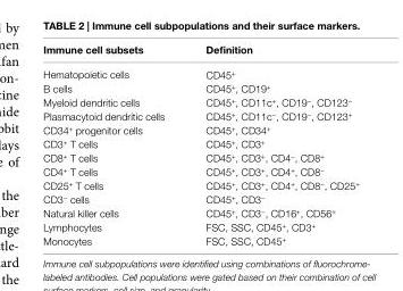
<table><thead><tr><td>immune cell subsets</td><td>Definition</td></tr></thead><tbody><tr><td>Hematopoietic cells</td><td>CD45<sup>+</sup></td></tr><tr><td>B cells</td><td>CD45<sup>+</sup>, CD19<sup>+</sup></td></tr><tr><td>Myeloid dendritic cells</td><td>CD45<sup>+</sup>, CD11c<sup>+</sup>, CD19<sup>−</sup>, CD123<sup>−</sup></td></tr><tr><td>Plasmacytoid dendritic cells</td><td>CD45<sup>+</sup>, CD11c<sup>−</sup>, CD19<sup>−</sup>, CD123<sup>+</sup></td></tr><tr><td>CD34<sup>+</sup> progenitor cells</td><td>CD45<sup>+</sup>, CD34<sup>+</sup></td></tr><tr><td>CD3<sup>+</sup> T cells</td><td>CD45<sup>+</sup>, CD3<sup>+</sup></td></tr><tr><td>CD8<sup>+</sup> T cells</td><td>CD45<sup>+</sup>, CD3<sup>+</sup>, CD4<sup>−</sup>, CD8<sup>+</sup></td></tr><tr><td>CD4<sup>+</sup> T cells</td><td>CD45<sup>+</sup>, CD3<sup>+</sup>, CD4<sup>+</sup>, CD8<sup>−</sup></td></tr><tr><td>CD25<sup>+</sup> T cells</td><td>CD45<sup>+</sup>, CD3<sup>+</sup>, CD4<sup>+</sup>, CD8<sup>−</sup>, CD25<sup>+</sup></td></tr><tr><td>CD3<sup>−</sup> cells</td><td>CD45<sup>+</sup>, CD3<sup>−</sup></td></tr><tr><td>Natural killer cells</td><td>CD45<sup>+</sup>, CD3<sup>−</sup>, CD16<sup>+</sup>, CD56<sup>+</sup></td></tr><tr><td>Lymphocytes</td><td>FSC, SSC, CD45<sup>+</sup>, CD3<sup>+</sup></td></tr><tr><td>Monocytes</td><td>FSC, SSC, CD45<sup>+</sup></td></tr></tbody></table>